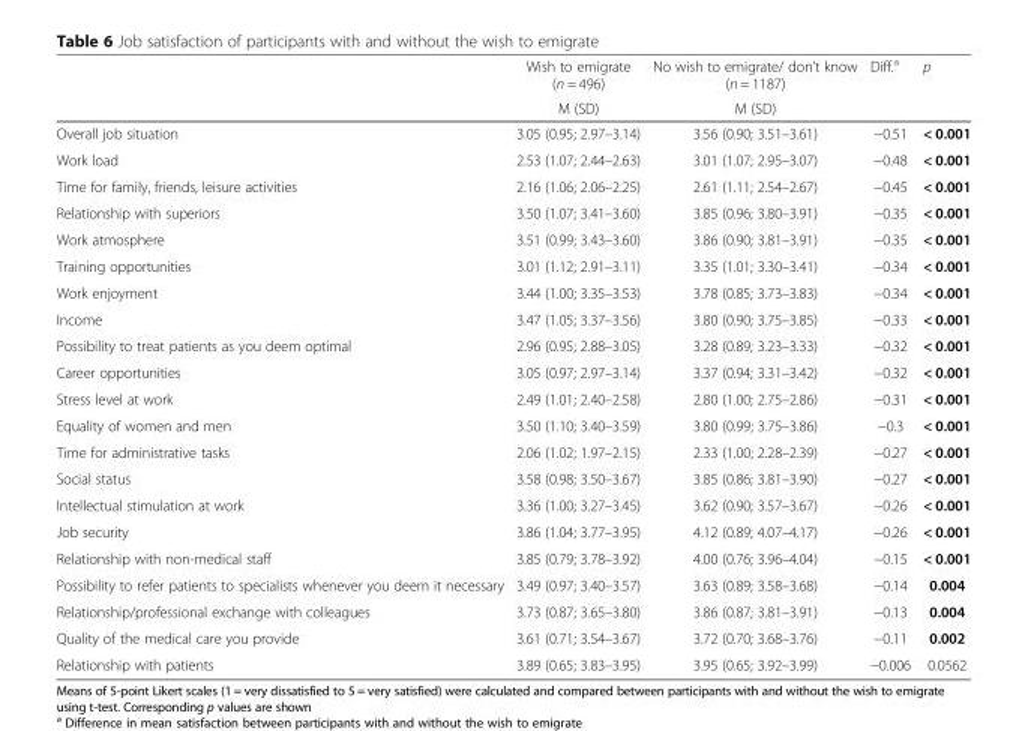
<table><thead><tr><td rowspan="2"></td><td rowspan="2">Wish to emigrate (n = 496) M (SD)</td><td rowspan="2">No wish to emigrate/ don’t know (n = 1187) M (SD)</td><td rowspan="2">Diff.<sup>a</sup></td><td rowspan="2">p</td></tr><tr></tr></thead><tbody><tr><td>Overall job situation</td><td>3.05 (0.95; 2.97–3.14)</td><td>3.56 (0.90; 3.51–3.61)</td><td>−0.51</td><td>&lt; 0.001</td></tr><tr><td>Work load</td><td>2.53 (1.07; 2.44–2.63)</td><td>3.01 (1.07; 2.95–3.07)</td><td>−0.48</td><td>&lt; 0.001</td></tr><tr><td>Time for family, friends, leisure activities</td><td>2.16 (1.06; 2.06–2.25)</td><td>2.61 (1.11; 2.54–2.67)</td><td>−0.45</td><td>&lt; 0.001</td></tr><tr><td>Relationship with superiors</td><td>3.50 (1.07; 3.41–3.60)</td><td>3.85 (0.96; 3.80–3.91)</td><td>−0.35</td><td>&lt; 0.001</td></tr><tr><td>Work atmosphere</td><td>3.51 (0.99; 3.43–3.60)</td><td>3.86 (0.90; 3.81–3.91)</td><td>−0.35</td><td>&lt; 0.001</td></tr><tr><td>Training opportunities</td><td>3.01 (1.12; 2.91–3.11)</td><td>3.35 (1.01; 3.30–3.41)</td><td>−0.34</td><td>&lt; 0.001</td></tr><tr><td>Work enjoyment</td><td>3.44 (1.00; 3.35–3.53)</td><td>3.78 (0.85; 3.73–3.83)</td><td>−0.34</td><td>&lt; 0.001</td></tr><tr><td>Income</td><td>3.47 (1.05; 3.37–3.56)</td><td>3.80 (0.90; 3.75–3.85)</td><td>−0.33</td><td>&lt; 0.001</td></tr><tr><td>Possibility to treat patients as you deem optimal</td><td>2.96 (0.95; 2.88–3.05)</td><td>3.28 (0.89; 3.23–3.33)</td><td>−0.32</td><td>&lt; 0.001</td></tr><tr><td>Career opportunities</td><td>3.05 (0.97; 2.97–3.14)</td><td>3.37 (0.94; 3.31–3.42)</td><td>−0.32</td><td>&lt; 0.001</td></tr><tr><td>Stress level at work</td><td>2.49 (1.01; 2.40–2.58)</td><td>2.80 (1.00; 2.75–2.86)</td><td>−0.31</td><td>&lt; 0.001</td></tr><tr><td>Equality of women and men</td><td>3.50 (1.10; 3.40–3.59)</td><td>3.80 (0.99; 3.75–3.86)</td><td>−0.3</td><td>&lt; 0.001</td></tr><tr><td>Time for administrative tasks</td><td>2.06 (1.02; 1.97–2.15)</td><td>2.33 (1.00; 2.28–2.39)</td><td>−0.27</td><td>&lt; 0.001</td></tr><tr><td>Social status</td><td>3.58 (0.98; 3.50–3.67)</td><td>3.85 (0.86; 3.81–3.90)</td><td>−0.27</td><td>&lt; 0.001</td></tr><tr><td>Intellectual stimulation at work</td><td>3.36 (1.00; 3.27–3.45)</td><td>3.62 (0.90; 3.57–3.67)</td><td>−0.26</td><td>&lt; 0.001</td></tr><tr><td>Job security</td><td>3.86 (1.04; 3.77–3.95)</td><td>4.12 (0.89; 4.07–4.17)</td><td>−0.26</td><td>&lt; 0.001</td></tr><tr><td>Relationship with non-medical staff</td><td>3.85 (0.79; 3.78–3.92)</td><td>4.00 (0.76; 3.96–4.04)</td><td>−0.15</td><td>&lt; 0.001</td></tr><tr><td>Possibility to refer patients to specialists whenever you deem it necessary</td><td>3.49 (0.97; 3.40–3.57)</td><td>3.63 (0.89; 3.58–3.68)</td><td>−0.14</td><td>0.004</td></tr><tr><td>Relationship/professional exchange with colleagues</td><td>3.73 (0.87; 3.65–3.80)</td><td>3.86 (0.87; 3.81–3.91)</td><td>−0.13</td><td>0.004</td></tr><tr><td>Quality of the medical care you provide</td><td>3.61 (0.71; 3.54–3.67)</td><td>3.72 (0.70; 3.68–3.76)</td><td>−0.11</td><td>0.002</td></tr><tr><td>Relationship with patients</td><td>3.89 (0.65; 3.83–3.95)</td><td>3.95 (0.65; 3.92–3.99)</td><td>−0.006</td><td>0.0562</td></tr></tbody></table>